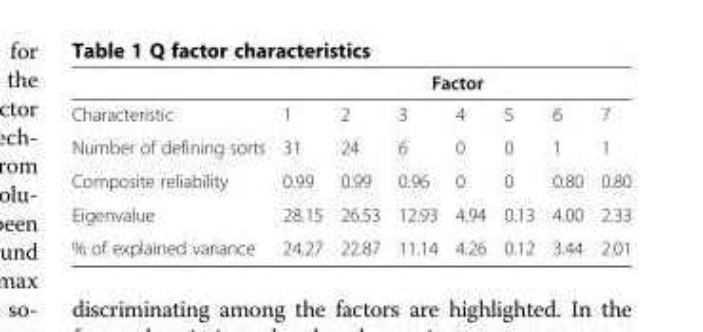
<table><thead><tr><td rowspan="2">Characteristic</td><td colspan="7">Factor</td></tr><tr><td>1</td><td>2</td><td>3</td><td>4</td><td>5</td><td>6</td><td>7</td></tr></thead><tbody><tr><td>Number of defining sorts</td><td>31</td><td>24</td><td>6</td><td>0</td><td>0</td><td>1</td><td>1</td></tr><tr><td>Composite reliability</td><td>0.99</td><td>0.99</td><td>0.96</td><td>0</td><td>0</td><td>0.80</td><td>0.80</td></tr><tr><td>Eigenvalue</td><td>28.15</td><td>26.53</td><td>12.93</td><td>4.94</td><td>0.13</td><td>4.00</td><td>2.33</td></tr><tr><td>% of explained variance</td><td>24.27</td><td>22.87</td><td>11.14</td><td>4.26</td><td>0.12</td><td>3.44</td><td>2.01</td></tr></tbody></table>